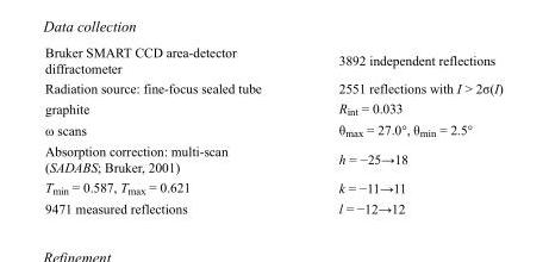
<table><tbody><tr><td>Bruker SMART CCD area-detector diffractometer</td><td>3892 independent reflections</td></tr><tr><td>Radiation source: fine-focus sealed tube</td><td>2551 reflections with I &gt; 2σ(I)</td></tr><tr><td>graphite</td><td>R<sub>int</sub> = 0.033</td></tr><tr><td>ω scans</td><td>θ<sub>max</sub> = 27.0°, θ<sub>min</sub> = 2.5°</td></tr><tr><td>Absorption correction: multi-scan (SADABS; Bruker, 2001)</td><td>h = −25→18</td></tr><tr><td>T<sub>min</sub> = 0.587, T<sub>max</sub> = 0.621</td><td>k = −11→11</td></tr><tr><td>9471 measured reflections</td><td>l = −12→12</td></tr></tbody></table>